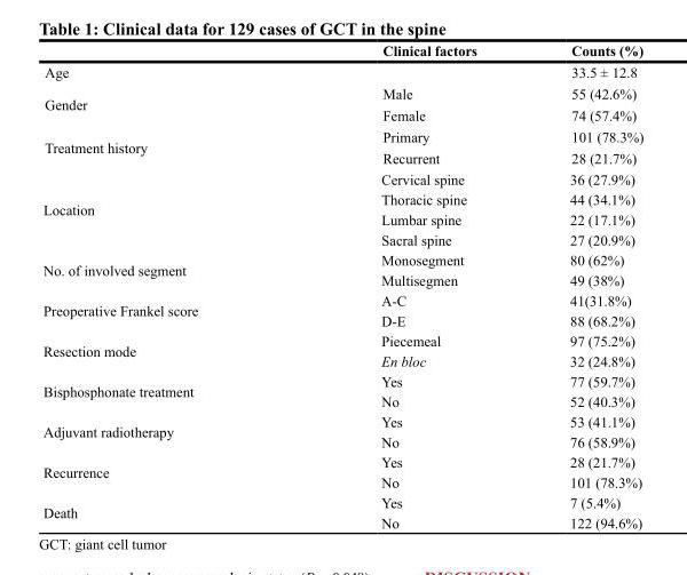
<table><thead><tr><td></td><td>Clinical factors</td><td>Counts (%)</td></tr></thead><tbody><tr><td>Age</td><td></td><td>33.5 ± 12.8</td></tr><tr><td rowspan="2">Gender</td><td>Male</td><td>55 (42.6%)</td></tr><tr><td>Female</td><td>74 (57.4%)</td></tr><tr><td rowspan="2">Treatment history</td><td>Primary</td><td>101 (78.3%)</td></tr><tr><td>Recurrent</td><td>28 (21.7%)</td></tr><tr><td rowspan="4">Location</td><td>Cervical spine</td><td>36 (27.9%)</td></tr><tr><td>Thoracic spine</td><td>44 (34.1%)</td></tr><tr><td>Lumbar spine</td><td>22 (17.1%)</td></tr><tr><td>Sacral spine</td><td>27 (20.9%)</td></tr><tr><td rowspan="2">No. of involved segment</td><td>Monosegment</td><td>80 (62%)</td></tr><tr><td>Multisegmen</td><td>49 (38%)</td></tr><tr><td rowspan="2">Preoperative Frankel score</td><td>A-C</td><td>41(31.8%)</td></tr><tr><td>D-E</td><td>88 (68.2%)</td></tr><tr><td rowspan="2">Resection mode</td><td>Piecemeal</td><td>97 (75.2%)</td></tr><tr><td>En bloc</td><td>32 (24.8%)</td></tr><tr><td rowspan="2">Bisphosphonate treatment</td><td>Yes</td><td>77 (59.7%)</td></tr><tr><td>No</td><td>52 (40.3%)</td></tr><tr><td rowspan="2">Adjuvant radiotherapy</td><td>Yes</td><td>53 (41.1%)</td></tr><tr><td>No</td><td>76 (58.9%)</td></tr><tr><td rowspan="2">Recurrence</td><td>Yes</td><td>28 (21.7%)</td></tr><tr><td>No</td><td>101 (78.3%)</td></tr><tr><td rowspan="2">Death</td><td>Yes</td><td>7 (5.4%)</td></tr><tr><td>No</td><td>122 (94.6%)</td></tr></tbody></table>